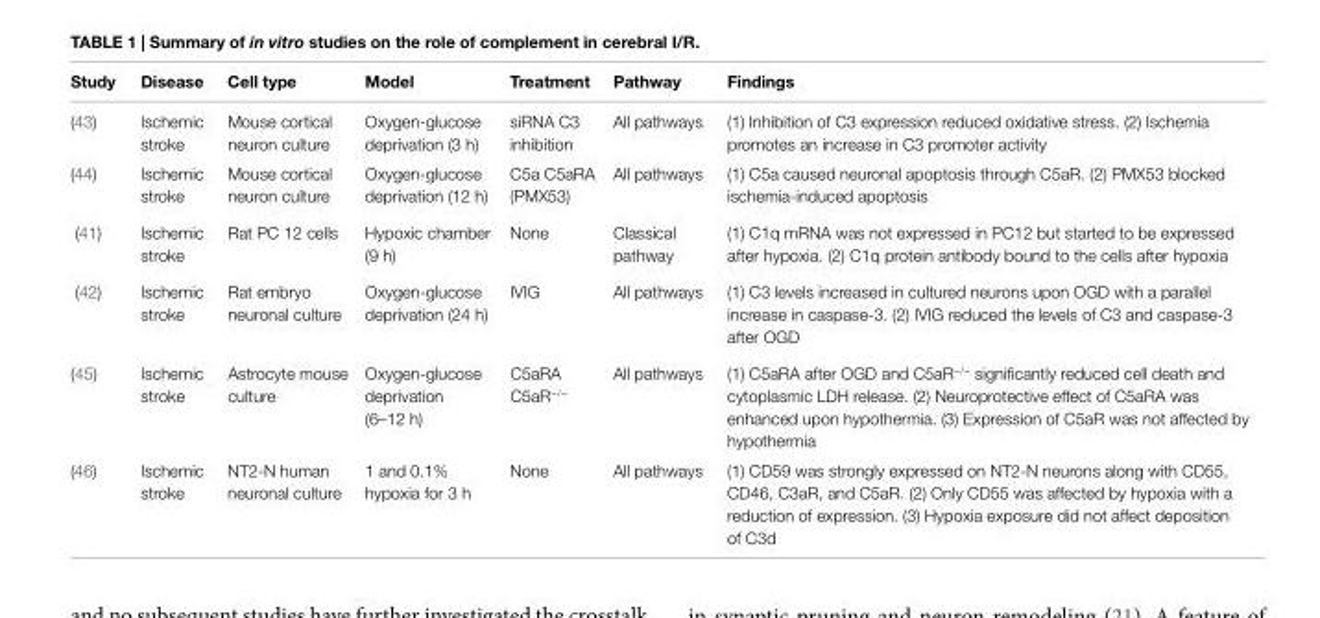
<table><thead><tr><td>Study</td><td>Disease</td><td>Cell type</td><td>Model</td><td>Treatment</td><td>Pathway</td><td>Findings</td></tr></thead><tbody><tr><td>(43)</td><td>Ischemic stroke</td><td>Mouse cortical neuron culture</td><td>Oxygen-glucose deprivation (3 h)</td><td>siRNA C3 inhibition</td><td>All pathways</td><td>(1) Inhibition of C3 expression reduced oxidative stress. (2) Ischemia promotes an increase in C3 promoter activity</td></tr><tr><td>(44)</td><td>Ischemic stroke</td><td>Mouse cortical neuron culture</td><td>Oxygen-glucose deprivation (12 h)</td><td>C5a C5aRA (PMX53)</td><td>All pathways</td><td>(1) C5a caused neuronal apoptosis through C5aR. (2) PMX53 blocked ischemia-induced apoptosis</td></tr><tr><td>(41)</td><td>Ischemic stroke</td><td>Rat PC 12 cells</td><td>Hypoxic chamber (9 h)</td><td>None</td><td>Classical pathway</td><td>(1) C1q mRNA was not expressed in PC12 but started to be expressed after hypoxia. (2) C1q protein antibody bound to the cells after hypoxia</td></tr><tr><td>(42)</td><td>Ischemic stroke</td><td>Rat embryo neuronal culture</td><td>Oxygen-glucose deprivation (24 h)</td><td>IVIG</td><td>All pathways</td><td>(1) C3 levels increased in cultured neurons upon OGD with a parallel increase in caspase-3. (2) IVIG reduced the levels of C3 and caspase-3 after OGD</td></tr><tr><td>(45)</td><td>Ischemic stroke</td><td>Astrocyte mouse culture</td><td>Oxygen-glucose deprivation (6–12 h)</td><td>C5aRA C5aR<sup>−/−</sup></td><td>All pathways</td><td>(1) C5aRA after OGD and C5aR<sup>−/−</sup> significantly reduced cell death and cytoplasmic LDH release. (2) Neuroprotective effect of C5aRA was enhanced upon hypothermia. (3) Expression of C5aR was not affected by hypothermia</td></tr><tr><td>(46)</td><td>Ischemic stroke</td><td>NT2-N human neuronal culture</td><td>1 and 0.1% hypoxia for 3 h</td><td>None</td><td>All pathways</td><td>(1) CD59 was strongly expressed on NT2-N neurons along with CD55, CD46, C3aR, and C5aR. (2) Only CD55 was affected by hypoxia with a reduction of expression. (3) Hypoxia exposure did not affect deposition of C3d</td></tr></tbody></table>